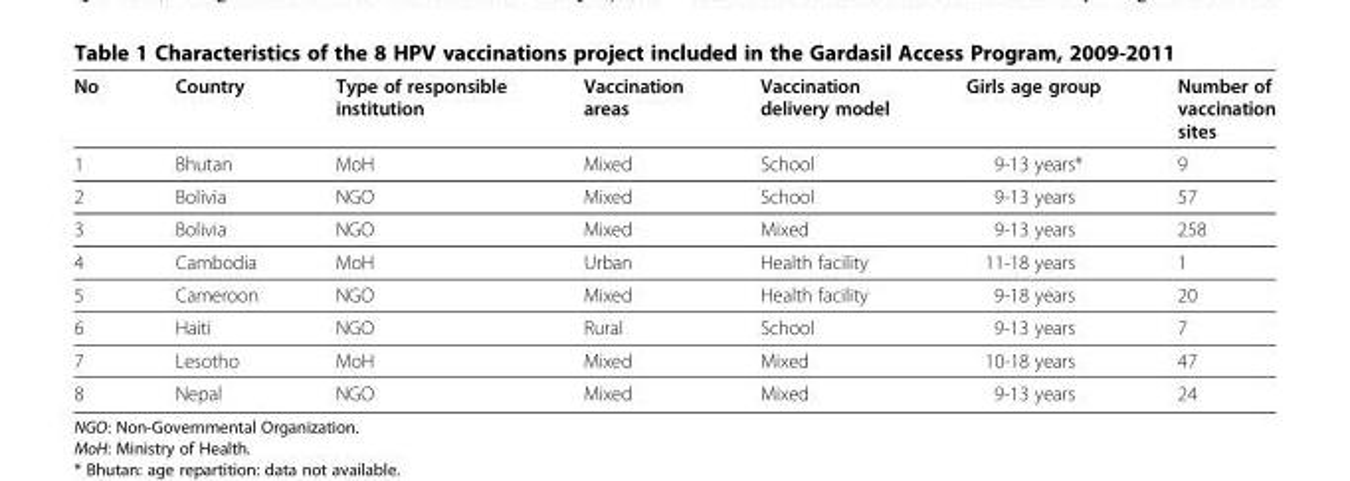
<table><thead><tr><td>No</td><td>Country</td><td>Type of responsible institution</td><td>Vaccination areas</td><td>Vaccination delivery model</td><td>Girls age group</td><td>Number of vaccination sites</td></tr></thead><tbody><tr><td>1</td><td>Bhutan</td><td>MoH</td><td>Mixed</td><td>School</td><td>9-13 years*</td><td>9</td></tr><tr><td>2</td><td>Bolivia</td><td>NGO</td><td>Mixed</td><td>School</td><td>9-13 years</td><td>57</td></tr><tr><td>3</td><td>Bolivia</td><td>NGO</td><td>Mixed</td><td>Mixed</td><td>9-13 years</td><td>258</td></tr><tr><td>4</td><td>Cambodia</td><td>MoH</td><td>Urban</td><td>Health facility</td><td>11-18 years</td><td>1</td></tr><tr><td>5</td><td>Cameroon</td><td>NGO</td><td>Mixed</td><td>Health facility</td><td>9-18 years</td><td>20</td></tr><tr><td>6</td><td>Haiti</td><td>NGO</td><td>Rural</td><td>School</td><td>9-13 years</td><td>7</td></tr><tr><td>7</td><td>Lesotho</td><td>MoH</td><td>Mixed</td><td>Mixed</td><td>10-18 years</td><td>47</td></tr><tr><td>8</td><td>Nepal</td><td>NGO</td><td>Mixed</td><td>Mixed</td><td>9-13 years</td><td>24</td></tr></tbody></table>